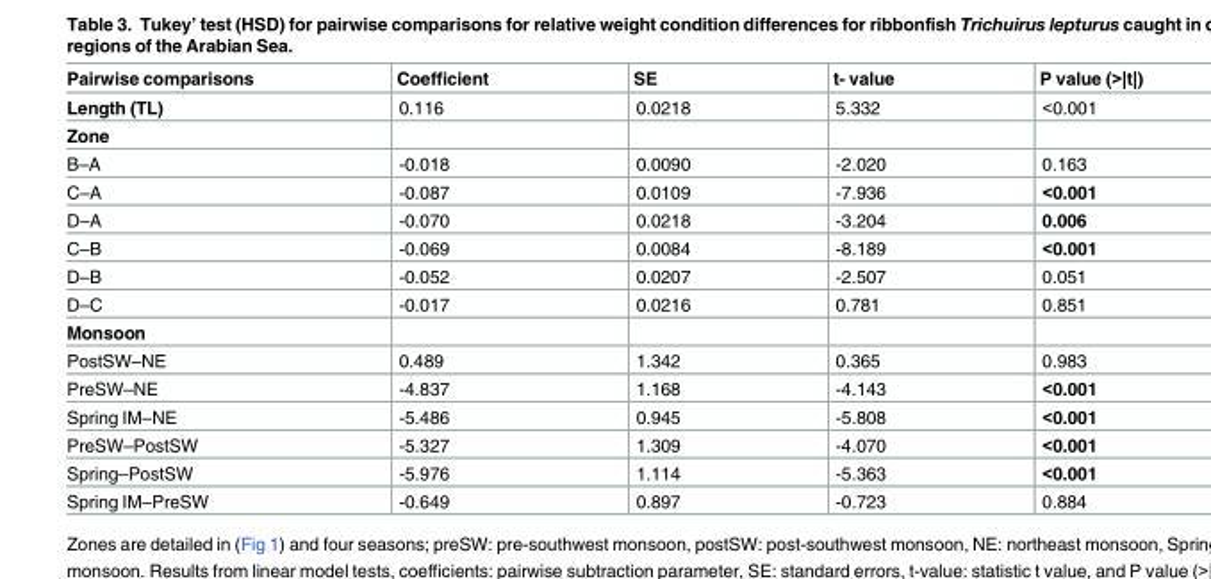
<table><thead><tr><td>Pairwise comparisons</td><td>Coefficient</td><td>SE</td><td>t- value</td><td>P value (&gt;|t|)</td></tr></thead><tbody><tr><td>Length (TL)</td><td>0.116</td><td>0.0218</td><td>5.332</td><td>&lt;0.001</td></tr><tr><td colspan="5">Zone</td></tr><tr><td>B–A</td><td>-0.018</td><td>0.0090</td><td>-2.020</td><td>0.163</td></tr><tr><td>C–A</td><td>-0.087</td><td>0.0109</td><td>-7.936</td><td>&lt;0.001</td></tr><tr><td>D–A</td><td>-0.070</td><td>0.0218</td><td>-3.204</td><td>0.006</td></tr><tr><td>C–B</td><td>-0.069</td><td>0.0084</td><td>-8.189</td><td>&lt;0.001</td></tr><tr><td>D–B</td><td>-0.052</td><td>0.0207</td><td>-2.507</td><td>0.051</td></tr><tr><td>D–C</td><td>-0.017</td><td>0.0216</td><td>0.781</td><td>0.851</td></tr><tr><td colspan="5">Monsoon</td></tr><tr><td>PostSW–NE</td><td>0.489</td><td>1.342</td><td>0.365</td><td>0.983</td></tr><tr><td>PreSW–NE</td><td>-4.837</td><td>1.168</td><td>-4.143</td><td>&lt;0.001</td></tr><tr><td>Spring IM–NE</td><td>-5.486</td><td>0.945</td><td>-5.808</td><td>&lt;0.001</td></tr><tr><td>PreSW–PostSW</td><td>-5.327</td><td>1.309</td><td>-4.070</td><td>&lt;0.001</td></tr><tr><td>Spring–PostSW</td><td>-5.976</td><td>1.114</td><td>-5.363</td><td>&lt;0.001</td></tr><tr><td>Spring IM–PreSW</td><td>-0.649</td><td>0.897</td><td>-0.723</td><td>0.884</td></tr></tbody></table>